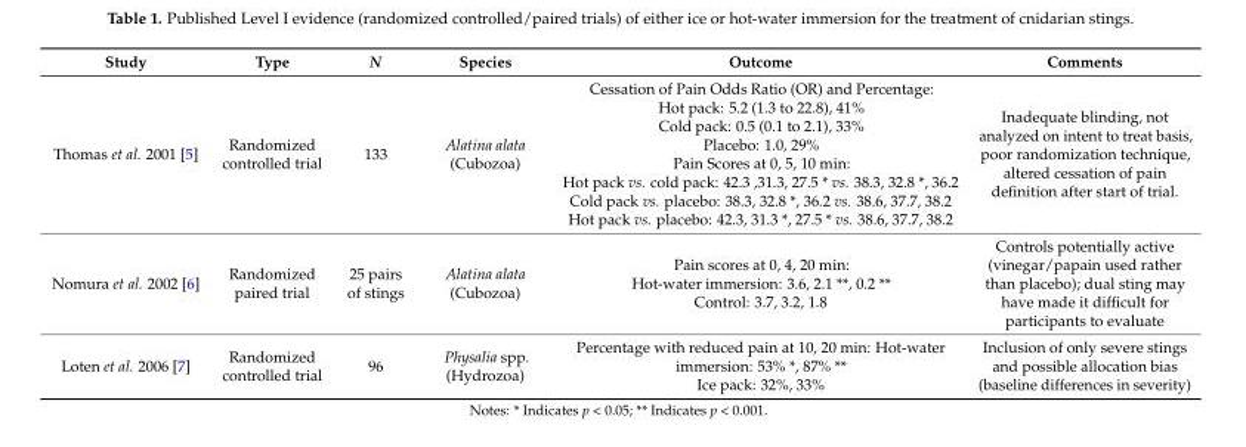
<table><thead><tr><td>Study</td><td>Type</td><td>N</td><td>Species</td><td>Outcome</td><td>Comments</td></tr></thead><tbody><tr><td>Thomas et al. 2001 [5]</td><td>Randomized controlled trial</td><td>133</td><td>Alatina alata (Cubozoa)</td><td>Cessation of Pain Odds Ratio (OR) and Percentage: Hot pack: 5.2 (1.3 to 22.8), 41% Cold pack: 0.5 (0.1 to 2.1), 33% Placebo: 1.0, 29% Pain Scores at 0, 5, 10 min: Hot pack vs. cold pack: 42.3 ,31.3, 27.5 * vs. 38.3, 32.8 *, 36.2 Cold pack vs. placebo: 38.3, 32.8 *, 36.2 vs. 38.6, 37.7, 38.2 Hot pack vs. placebo: 42.3, 31.3 *, 27.5 * vs. 38.6, 37.7, 38.2</td><td>Inadequate blinding, not analyzed on intent to treat basis, poor randomization technique, altered cessation of pain definition after start of trial.</td></tr><tr><td>Nomura et al. 2002 [6]</td><td>Randomized paired trial</td><td>25 pairs of stings</td><td>Alatina alata (Cubozoa)</td><td>Pain scores at 0, 4, 20 min: Hot-water immersion: 3.6, 2.1 **, 0.2 ** Control: 3.7, 3.2, 1.8</td><td>Controls potentially active (vinegar/papain used rather than placebo); dual sting may have made it difficult for participants to evaluate</td></tr><tr><td>Loten et al. 2006 [7]</td><td>Randomized controlled trial</td><td>96</td><td>Physalia spp. (Hydrozoa)</td><td>Percentage with reduced pain at 10, 20 min: Hot-water immersion: 53% *, 87% ** Ice pack: 32%, 33%</td><td>Inclusion of only severe stings and possible allocation bias (baseline differences in severity)</td></tr></tbody></table>